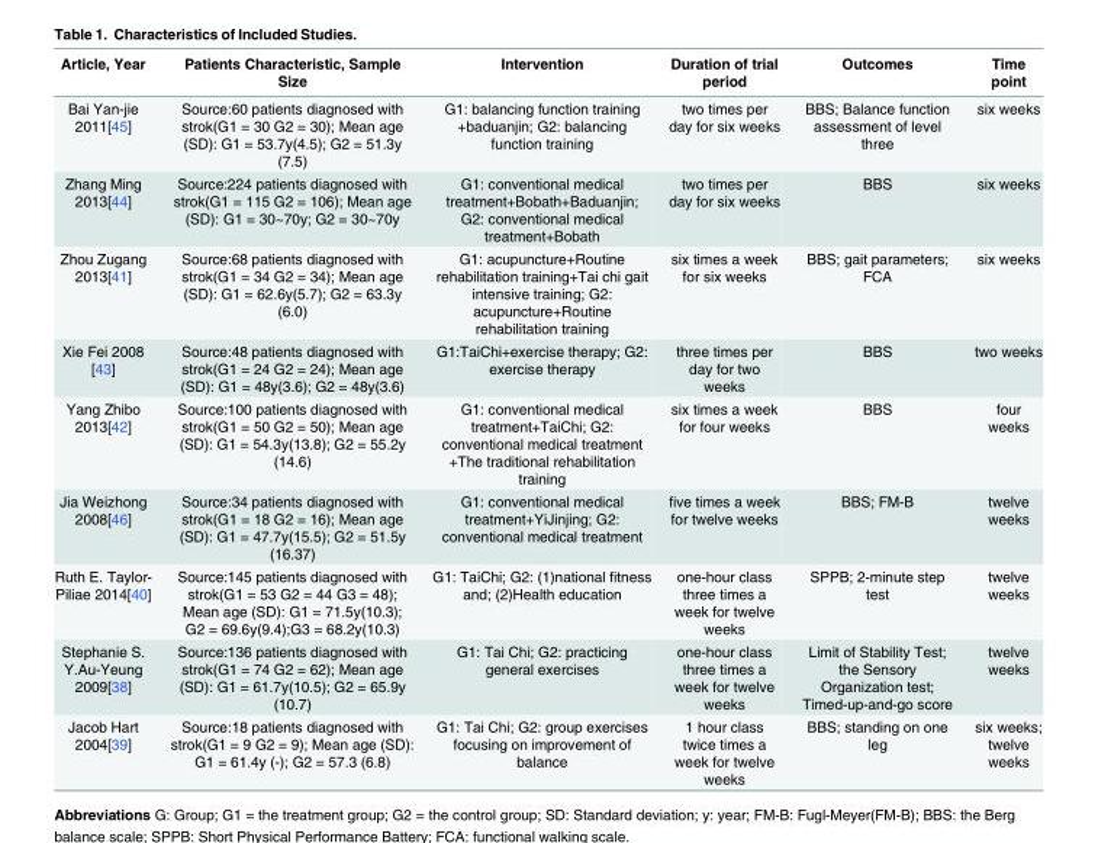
<table><thead><tr><td>Article, Year</td><td>Patients Characteristic, Sample Size</td><td>Intervention</td><td>Duration of trial period</td><td>Outcomes</td><td>Time point</td></tr></thead><tbody><tr><td>Bai Yan-jie 2011[45]</td><td>Source:60 patients diagnosed with strok(G1 = 30 G2 = 30); Mean age (SD): G1 = 53.7y(4.5); G2 = 51.3y (7.5)</td><td>G1: balancing function training +baduanjin; G2: balancing function training</td><td>two times per day for six weeks</td><td>BBS; Balance function assessment of level three</td><td>six weeks</td></tr><tr><td>Zhang Ming 2013[44]</td><td>Source:224 patients diagnosed with strok(G1 = 115 G2 = 106); Mean age (SD): G1 = 30~70y; G2 = 30~70y</td><td>G1: conventional medical treatment+Bobath+Baduanjin; G2: conventional medical treatment+Bobath</td><td>two times per day for six weeks</td><td>BBS</td><td>six weeks</td></tr><tr><td>Zhou Zugang 2013[41]</td><td>Source:68 patients diagnosed with strok(G1 = 34 G2 = 34); Mean age (SD): G1 = 62.6y(5.7); G2 = 63.3y (6.0)</td><td>G1: acupuncture+Routine rehabilitation training+Tai chi gait intensive training; G2: acupuncture+Routine rehabilitation training</td><td>six times a week for six weeks</td><td>BBS; gait parameters; FCA</td><td>six weeks</td></tr><tr><td>Xie Fei 2008 [43]</td><td>Source:48 patients diagnosed with strok(G1 = 24 G2 = 24); Mean age (SD): G1 = 48y(3.6); G2 = 48y(3.6)</td><td>G1:TaiChi+exercise therapy; G2: exercise therapy</td><td>three times per day for two weeks</td><td>BBS</td><td>two weeks</td></tr><tr><td>Yang Zhibo 2013[42]</td><td>Source:100 patients diagnosed with strok(G1 = 50 G2 = 50); Mean age (SD): G1 = 54.3y(13.8); G2 = 55.2y (14.6)</td><td>G1: conventional medical treatment+TaiChi; G2: conventional medical treatment +The traditional rehabilitation training</td><td>six times a week for four weeks</td><td>BBS</td><td>four weeks</td></tr><tr><td>Jia Weizhong 2008[46]</td><td>Source:34 patients diagnosed with strok(G1 = 18 G2 = 16); Mean age (SD): G1 = 47.7y(15.5); G2 = 51.5y (16.37)</td><td>G1: conventional medical treatment+YiJinjing; G2: conventional medical treatment</td><td>five times a week for twelve weeks</td><td>BBS; FM-B</td><td>twelve weeks</td></tr><tr><td>Ruth E. Taylor- Piliae 2014[40]</td><td>Source:145 patients diagnosed with strok(G1 = 53 G2 = 44 G3 = 48); Mean age (SD): G1 = 71.5y(10.3); G2 = 69.6y(9.4);G3 = 68.2y(10.3)</td><td>G1: TaiChi; G2: (1)national fitness and; (2)Health education</td><td>one-hour class three times a week for twelve weeks</td><td>SPPB; 2-minute step test</td><td>twelve weeks</td></tr><tr><td>Stephanie S. Y.Au-Yeung 2009[38]</td><td>Source:136 patients diagnosed with strok(G1 = 74 G2 = 62); Mean age (SD): G1 = 61.7y(10.5); G2 = 65.9y (10.7)</td><td>G1: Tai Chi; G2: practicing general exercises</td><td>one-hour class three times a week for twelve weeks</td><td>Limit of Stability Test; the Sensory Organization test; Timed-up-and-go score</td><td>twelve weeks</td></tr><tr><td>Jacob Hart 2004[39]</td><td>Source:18 patients diagnosed with strok(G1 = 9 G2 = 9); Mean age (SD): G1 = 61.4y (-); G2 = 57.3 (6.8)</td><td>G1: Tai Chi; G2: group exercises focusing on improvement of balance</td><td>1 hour class twice times a week for twelve weeks</td><td>BBS; standing on one leg</td><td>six weeks; twelve weeks</td></tr></tbody></table>